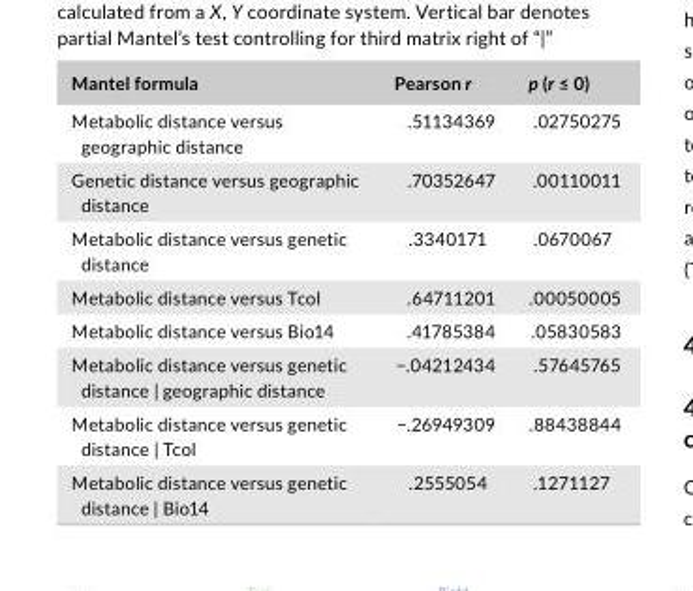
<table><thead><tr><td>Mantel formula</td><td>Pearson r</td><td>p (r ≤ 0)</td></tr></thead><tbody><tr><td>Metabolic distance versus geographic distance</td><td>.51134369</td><td>.02750275</td></tr><tr><td>Genetic distance versus geographic distance</td><td>.70352647</td><td>.00110011</td></tr><tr><td>Metabolic distance versus genetic distance</td><td>.3340171</td><td>.0670067</td></tr><tr><td>Metabolic distance versus Tcol</td><td>.64711201</td><td>.00050005</td></tr><tr><td>Metabolic distance versus Bio14</td><td>.41785384</td><td>.05830583</td></tr><tr><td>Metabolic distance versus genetic distance | geographic distance</td><td>−.04212434</td><td>.57645765</td></tr><tr><td>Metabolic distance versus genetic distance | Tcol</td><td>−.26949309</td><td>.88438844</td></tr><tr><td>Metabolic distance versus genetic distance | Bio14</td><td>.2555054</td><td>.1271127</td></tr></tbody></table>